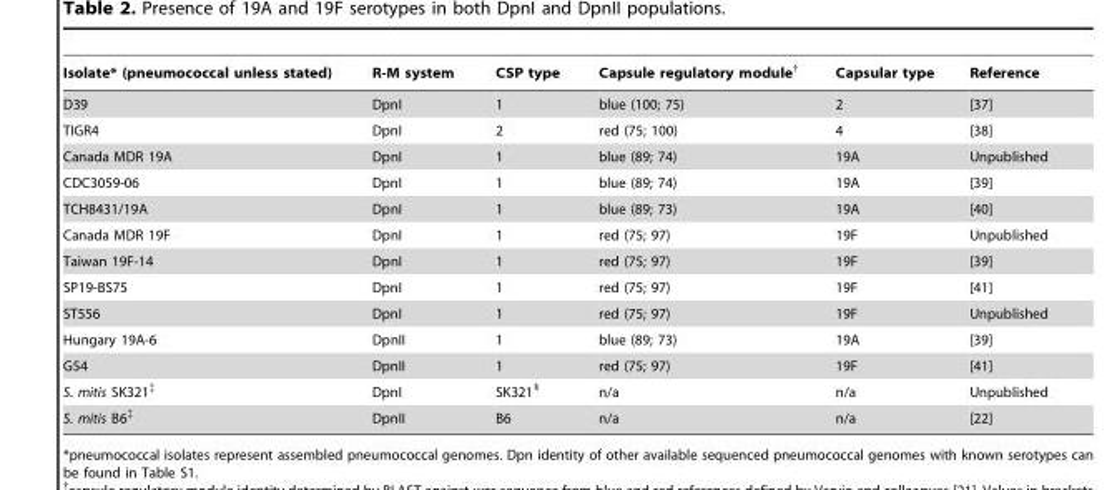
<table><thead><tr><td>Isolate* (pneumococcal unless stated)</td><td>R-M system</td><td>CSP type</td><td>Capsule regulatory module†</td><td>Capsular type</td><td>Reference</td></tr></thead><tbody><tr><td>D39</td><td>DpnI</td><td>1</td><td>blue (100; 75)</td><td>2</td><td>[37]</td></tr><tr><td>TIGR4</td><td>DpnI</td><td>2</td><td>red (75; 100)</td><td>4</td><td>[38]</td></tr><tr><td>Canada MDR 19A</td><td>DpnI</td><td>1</td><td>blue (89; 74)</td><td>19A</td><td>Unpublished</td></tr><tr><td>CDC3059-06</td><td>DpnI</td><td>1</td><td>blue (89; 74)</td><td>19A</td><td>[39]</td></tr><tr><td>TCH8431/19A</td><td>DpnI</td><td>1</td><td>blue (89; 73)</td><td>19A</td><td>[40]</td></tr><tr><td>Canada MDR 19F</td><td>DpnI</td><td>1</td><td>red (75; 97)</td><td>19F</td><td>Unpublished</td></tr><tr><td>Taiwan 19F-14</td><td>DpnI</td><td>1</td><td>red (75; 97)</td><td>19F</td><td>[39]</td></tr><tr><td>SP19-BS75</td><td>DpnI</td><td>1</td><td>red (75; 97)</td><td>19F</td><td>[41]</td></tr><tr><td>ST556</td><td>DpnI</td><td>1</td><td>red (75; 97)</td><td>19F</td><td>Unpublished</td></tr><tr><td>Hungary 19A-6</td><td>DpnII</td><td>1</td><td>blue (89; 73)</td><td>19A</td><td>[39]</td></tr><tr><td>G54</td><td>DpnII</td><td>1</td><td>red (75; 97)</td><td>19F</td><td>[41]</td></tr><tr><td>S. mitis SK321‡</td><td>DpnI</td><td>SK321§</td><td>n/a</td><td>n/a</td><td>Unpublished</td></tr><tr><td>S. mitis B6‡</td><td>DpnII</td><td>B6</td><td>n/a</td><td>n/a</td><td>[22]</td></tr></tbody></table>